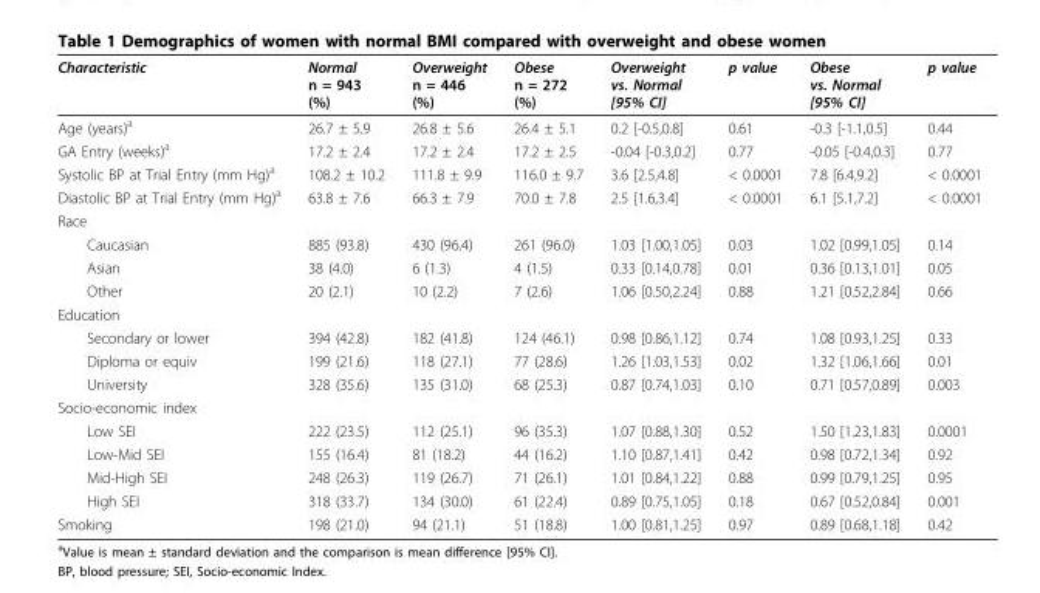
<table><thead><tr><td>Characteristic</td><td>Normal n = 943 (%)</td><td>Overweight n = 446 (%)</td><td>Obese n = 272 (%)</td><td>Overweight vs. Normal [95% CI]</td><td>p value</td><td>Obese vs. Normal [95% CI]</td><td>p value</td></tr></thead><tbody><tr><td>Age (years)<sup>a</sup></td><td>26.7 ± 5.9</td><td>26.8 ± 5.6</td><td>26.4 ± 5.1</td><td>0.2 [-0.5,0.8]</td><td>0.61</td><td>-0.3 [-1.1,0.5]</td><td>0.44</td></tr><tr><td>GA Entry (weeks)<sup>a</sup></td><td>17.2 ± 2.4</td><td>17.2 ± 2.4</td><td>17.2 ± 2.5</td><td>-0.04 [-0.3,0.2]</td><td>0.77</td><td>-0.05 [-0.4,0.3]</td><td>0.77</td></tr><tr><td>Systolic BP at Trial Entry (mm Hg)<sup>a</sup></td><td>108.2 ± 10.2</td><td>111.8 ± 9.9</td><td>116.0 ± 9.7</td><td>3.6 [2.5,4.8]</td><td>&lt; 0.0001</td><td>7.8 [6.4,9.2]</td><td>&lt; 0.0001</td></tr><tr><td>Diastolic BP at Trial Entry (mm Hg)<sup>a</sup></td><td>63.8 ± 7.6</td><td>66.3 ± 7.9</td><td>70.0 ± 7.8</td><td>2.5 [1.6,3.4]</td><td>&lt; 0.0001</td><td>6.1 [5.1,7.2]</td><td>&lt; 0.0001</td></tr><tr><td colspan="8">Race</td></tr><tr><td>Caucasian</td><td>885 (93.8)</td><td>430 (96.4)</td><td>261 (96.0)</td><td>1.03 [1.00,1.05]</td><td>0.03</td><td>1.02 [0.99,1.05]</td><td>0.14</td></tr><tr><td>Asian</td><td>38 (4.0)</td><td>6 (1.3)</td><td>4 (1.5)</td><td>0.33 [0.14,0.78]</td><td>0.01</td><td>0.36 [0.13,1.01]</td><td>0.05</td></tr><tr><td>Other</td><td>20 (2.1)</td><td>10 (2.2)</td><td>7 (2.6)</td><td>1.06 [0.50,2.24]</td><td>0.88</td><td>1.21 [0.52,2.84]</td><td>0.66</td></tr><tr><td colspan="8">Education</td></tr><tr><td>Secondary or lower</td><td>394 (42.8)</td><td>182 (41.8)</td><td>124 (46.1)</td><td>0.98 [0.86,1.12]</td><td>0.74</td><td>1.08 [0.93,1.25]</td><td>0.33</td></tr><tr><td>Diploma or equiv</td><td>199 (21.6)</td><td>118 (27.1)</td><td>77 (28.6)</td><td>1.26 [1.03,1.53]</td><td>0.02</td><td>1.32 [1.06,1.66]</td><td>0.01</td></tr><tr><td>University</td><td>328 (35.6)</td><td>135 (31.0)</td><td>68 (25.3)</td><td>0.87 [0.74,1.03]</td><td>0.10</td><td>0.71 [0.57,0.89]</td><td>0.003</td></tr><tr><td colspan="8">Socio-economic index</td></tr><tr><td>Low SEI</td><td>222 (23.5)</td><td>112 (25.1)</td><td>96 (35.3)</td><td>1.07 [0.88,1.30]</td><td>0.52</td><td>1.50 [1.23,1.83]</td><td>0.0001</td></tr><tr><td>Low-Mid SEI</td><td>155 (16.4)</td><td>81 (18.2)</td><td>44 (16.2)</td><td>1.10 [0.87,1.41]</td><td>0.42</td><td>0.98 [0.72,1.34]</td><td>0.92</td></tr><tr><td>Mid-High SEI</td><td>248 (26.3)</td><td>119 (26.7)</td><td>71 (26.1)</td><td>1.01 [0.84,1.22]</td><td>0.88</td><td>0.99 [0.79,1.25]</td><td>0.95</td></tr><tr><td>High SEI</td><td>318 (33.7)</td><td>134 (30.0)</td><td>61 (22.4)</td><td>0.89 [0.75,1.05]</td><td>0.18</td><td>0.67 [0.52,0.84]</td><td>0.001</td></tr><tr><td>Smoking</td><td>198 (21.0)</td><td>94 (21.1)</td><td>51 (18.8)</td><td>1.00 [0.81,1.25]</td><td>0.97</td><td>0.89 [0.68,1.18]</td><td>0.42</td></tr></tbody></table>